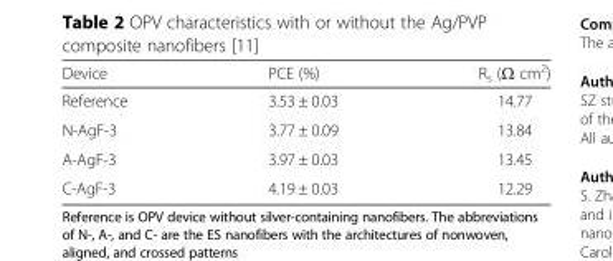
<table><thead><tr><td>Device</td><td>PCE (%)</td><td>R<sub>s</sub> (Ω cm<sup>2</sup>)</td></tr></thead><tbody><tr><td>Reference</td><td>3.53 ± 0.03</td><td>14.77</td></tr><tr><td>N-AgF-3</td><td>3.77 ± 0.09</td><td>13.84</td></tr><tr><td>A-AgF-3</td><td>3.97 ± 0.03</td><td>13.45</td></tr><tr><td>C-AgF-3</td><td>4.19 ± 0.03</td><td>12.29</td></tr></tbody></table>